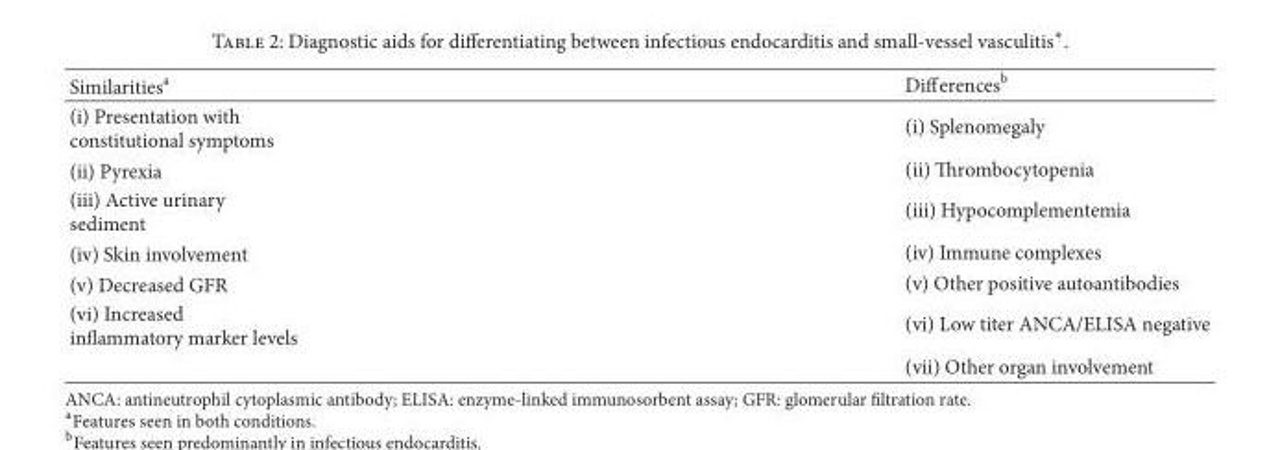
<table><thead><tr><td>Similarities<sup>a</sup></td><td>Differences<sup>b</sup></td></tr></thead><tbody><tr><td>(i) Presentation with constitutional symptoms</td><td>(i) Splenomegaly</td></tr><tr><td>(ii) Pyrexia</td><td>(ii) Thrombocytopenia</td></tr><tr><td>(iii) Active urinary sediment</td><td>(iii) Hypocomplementemia</td></tr><tr><td>(iv) Skin involvement</td><td>(iv) Immune complexes</td></tr><tr><td>(v) Decreased GFR</td><td>(v) Other positive autoantibodies</td></tr><tr><td rowspan="2">(vi) Increased inflammatory marker levels</td><td>(vi) Low titer ANCA/ELISA negative</td></tr><tr><td>(vii) Other organ involvement</td></tr></tbody></table>